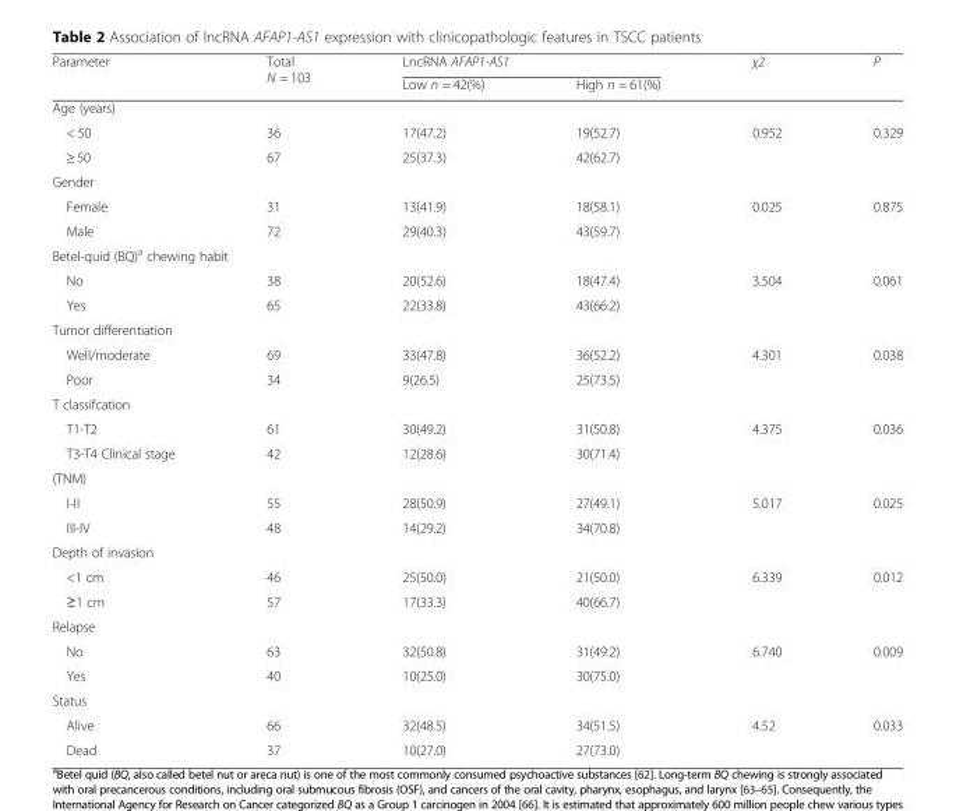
<table><thead><tr><td rowspan="2">Parameter</td><td rowspan="2">Total N = 103</td><td colspan="2">LncRNA AFAP1-AS1</td><td rowspan="2">χ2</td><td rowspan="2">P</td></tr><tr><td>Low n = 42(%)</td><td>High n = 61(%)</td></tr></thead><tbody><tr><td colspan="6">Age (years)</td></tr><tr><td>&lt; 50</td><td>36</td><td>17(47.2)</td><td>19(52.7)</td><td rowspan="2">0.952</td><td rowspan="2">0.329</td></tr><tr><td>≥ 50</td><td>67</td><td>25(37.3)</td><td>42(62.7)</td></tr><tr><td colspan="6">Gender</td></tr><tr><td>Female</td><td>31</td><td>13(41.9)</td><td>18(58.1)</td><td rowspan="2">0.025</td><td rowspan="2">0.875</td></tr><tr><td>Male</td><td>72</td><td>29(40.3)</td><td>43(59.7)</td></tr><tr><td colspan="6">Betel-quid (BQ)a chewing habit</td></tr><tr><td>No</td><td>38</td><td>20(52.6)</td><td>18(47.4)</td><td rowspan="2">3.504</td><td rowspan="2">0.061</td></tr><tr><td>Yes</td><td>65</td><td>22(33.8)</td><td>43(66.2)</td></tr><tr><td colspan="6">Tumor differentiation</td></tr><tr><td>Well/moderate</td><td>69</td><td>33(47.8)</td><td>36(52.2)</td><td rowspan="2">4.301</td><td rowspan="2">0.038</td></tr><tr><td>Poor</td><td>34</td><td>9(26.5)</td><td>25(73.5)</td></tr><tr><td colspan="6">T classifcation</td></tr><tr><td>T1-T2</td><td>61</td><td>30(49.2)</td><td>31(50.8)</td><td rowspan="2">4.375</td><td rowspan="2">0.036</td></tr><tr><td>T3-T4 Clinical stage</td><td>42</td><td>12(28.6)</td><td>30(71.4)</td></tr><tr><td colspan="6">(TNM)</td></tr><tr><td>I-II</td><td>55</td><td>28(50.9)</td><td>27(49.1)</td><td rowspan="2">5.017</td><td rowspan="2">0.025</td></tr><tr><td>III-IV</td><td>48</td><td>14(29.2)</td><td>34(70.8)</td></tr><tr><td colspan="6">Depth of invasion</td></tr><tr><td>&lt;1 cm</td><td>46</td><td>25(50.0)</td><td>21(50.0)</td><td rowspan="2">6.339</td><td rowspan="2">0.012</td></tr><tr><td>≥1 cm</td><td>57</td><td>17(33.3)</td><td>40(66.7)</td></tr><tr><td colspan="6">Relapse</td></tr><tr><td>No</td><td>63</td><td>32(50.8)</td><td>31(49.2)</td><td rowspan="2">6.740</td><td rowspan="2">0.009</td></tr><tr><td>Yes</td><td>40</td><td>10(25.0)</td><td>30(75.0)</td></tr><tr><td colspan="6">Status</td></tr><tr><td>Alive</td><td>66</td><td>32(48.5)</td><td>34(51.5)</td><td rowspan="2">4.52</td><td rowspan="2">0.033</td></tr><tr><td>Dead</td><td>37</td><td>10(27.0)</td><td>27(73.0)</td></tr></tbody></table>